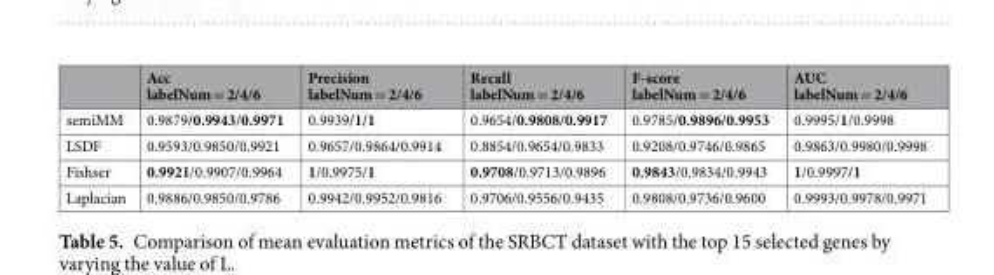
<table><thead><tr><td></td><td>Acc labelNum = 2/4/6</td><td>Precision labelNum = 2/4/6</td><td>Recall labelNum = 2/4/6</td><td>F-score labelNum = 2/4/6</td><td>AUC labelNum = 2/4/6</td></tr></thead><tbody><tr><td>semiMM</td><td>0.9879/0.9943/0.9971</td><td>0.9939/1/1</td><td>0.9654/0.9808/0.9917</td><td>0.9785/0.9896/0.9953</td><td>0.9995/1/0.9998</td></tr><tr><td>LSDF</td><td>0.9593/0.9850/0.9921</td><td>0.9657/0.9864/0.9914</td><td>0.8854/0.9654/0.9833</td><td>0.9208/0.9746/0.9865</td><td>0.9863/0.9980/0.9998</td></tr><tr><td>Fishser</td><td>0.9921/0.9907/0.9964</td><td>1/0.9975/1</td><td>0.9708/0.9713/0.9896</td><td>0.9843/0.9834/0.9943</td><td>1/0.9997/1</td></tr><tr><td>Laplacian</td><td>0.9886/0.9850/0.9786</td><td>0.9942/0.9952/0.9816</td><td>0.9706/0.9556/0.9435</td><td>0.9808/0.9736/0.9600</td><td>0.9993/0.9978/0.9971</td></tr></tbody></table>